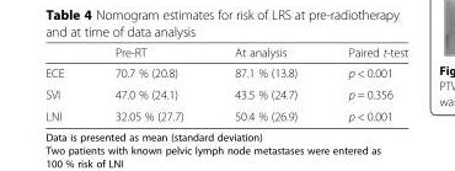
<table><thead><tr><td></td><td>Pre-RT</td><td>At analysis</td><td>Paired t-test</td></tr></thead><tbody><tr><td>ECE</td><td>70.7 % (20.8)</td><td>87.1 % (13.8)</td><td>p &lt; 0.001</td></tr><tr><td>SVI</td><td>47.0 % (24.1)</td><td>43.5 % (24.7)</td><td>p = 0.356</td></tr><tr><td>LNI</td><td>32.05 % (27.7)</td><td>50.4 % (26.9)</td><td>p &lt; 0.001</td></tr></tbody></table>